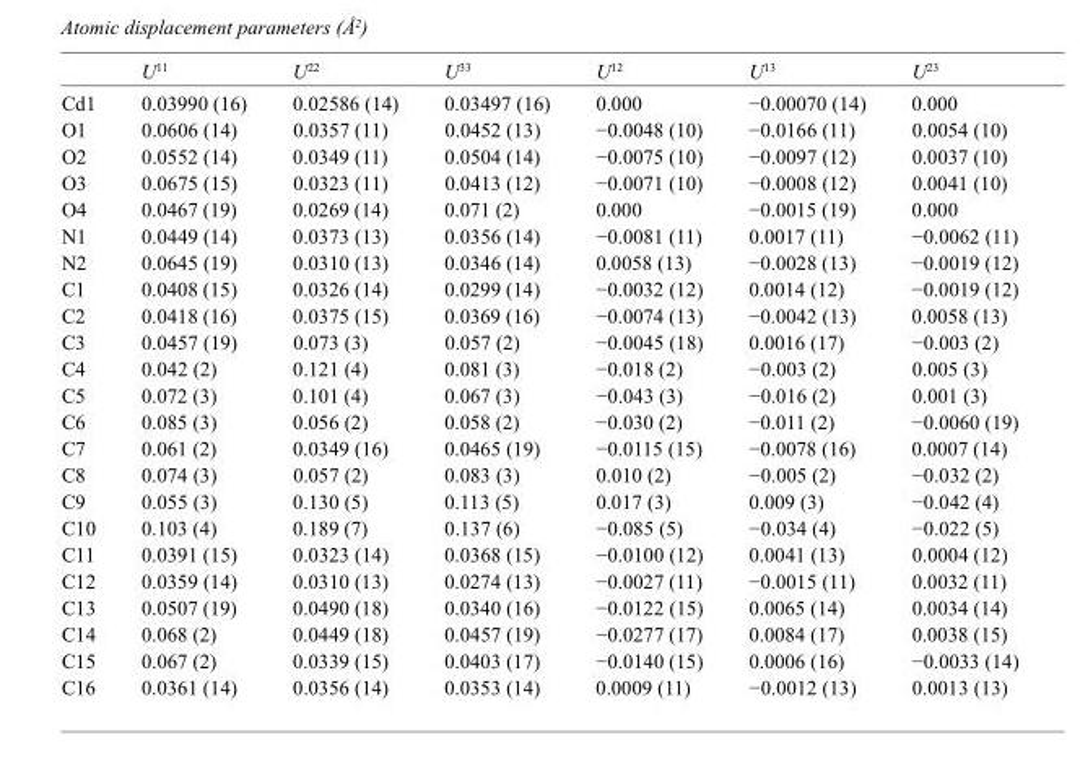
<table><thead><tr><td></td><td>U<sup>11</sup></td><td>U<sup>22</sup></td><td>U<sup>33</sup></td><td>U<sup>12</sup></td><td>U<sup>13</sup></td><td>U<sup>23</sup></td></tr></thead><tbody><tr><td>Cd1</td><td>0.03990 (16)</td><td>0.02586 (14)</td><td>0.03497 (16)</td><td>0.000</td><td>−0.00070 (14)</td><td>0.000</td></tr><tr><td>O1</td><td>0.0606 (14)</td><td>0.0357 (11)</td><td>0.0452 (13)</td><td>−0.0048 (10)</td><td>−0.0166 (11)</td><td>0.0054 (10)</td></tr><tr><td>O2</td><td>0.0552 (14)</td><td>0.0349 (11)</td><td>0.0504 (14)</td><td>−0.0075 (10)</td><td>−0.0097 (12)</td><td>0.0037 (10)</td></tr><tr><td>O3</td><td>0.0675 (15)</td><td>0.0323 (11)</td><td>0.0413 (12)</td><td>−0.0071 (10)</td><td>−0.0008 (12)</td><td>0.0041 (10)</td></tr><tr><td>O4</td><td>0.0467 (19)</td><td>0.0269 (14)</td><td>0.071 (2)</td><td>0.000</td><td>−0.0015 (19)</td><td>0.000</td></tr><tr><td>N1</td><td>0.0449 (14)</td><td>0.0373 (13)</td><td>0.0356 (14)</td><td>−0.0081 (11)</td><td>0.0017 (11)</td><td>−0.0062 (11)</td></tr><tr><td>N2</td><td>0.0645 (19)</td><td>0.0310 (13)</td><td>0.0346 (14)</td><td>0.0058 (13)</td><td>−0.0028 (13)</td><td>−0.0019 (12)</td></tr><tr><td>C1</td><td>0.0408 (15)</td><td>0.0326 (14)</td><td>0.0299 (14)</td><td>−0.0032 (12)</td><td>0.0014 (12)</td><td>−0.0019 (12)</td></tr><tr><td>C2</td><td>0.0418 (16)</td><td>0.0375 (15)</td><td>0.0369 (16)</td><td>−0.0074 (13)</td><td>−0.0042 (13)</td><td>0.0058 (13)</td></tr><tr><td>C3</td><td>0.0457 (19)</td><td>0.073 (3)</td><td>0.057 (2)</td><td>−0.0045 (18)</td><td>0.0016 (17)</td><td>−0.003 (2)</td></tr><tr><td>C4</td><td>0.042 (2)</td><td>0.121 (4)</td><td>0.081 (3)</td><td>−0.018 (2)</td><td>−0.003 (2)</td><td>0.005 (3)</td></tr><tr><td>C5</td><td>0.072 (3)</td><td>0.101 (4)</td><td>0.067 (3)</td><td>−0.043 (3)</td><td>−0.016 (2)</td><td>0.001 (3)</td></tr><tr><td>C6</td><td>0.085 (3)</td><td>0.056 (2)</td><td>0.058 (2)</td><td>−0.030 (2)</td><td>−0.011 (2)</td><td>−0.0060 (19)</td></tr><tr><td>C7</td><td>0.061 (2)</td><td>0.0349 (16)</td><td>0.0465 (19)</td><td>−0.0115 (15)</td><td>−0.0078 (16)</td><td>0.0007 (14)</td></tr><tr><td>C8</td><td>0.074 (3)</td><td>0.057 (2)</td><td>0.083 (3)</td><td>0.010 (2)</td><td>−0.005 (2)</td><td>−0.032 (2)</td></tr><tr><td>C9</td><td>0.055 (3)</td><td>0.130 (5)</td><td>0.113 (5)</td><td>0.017 (3)</td><td>0.009 (3)</td><td>−0.042 (4)</td></tr><tr><td>C10</td><td>0.103 (4)</td><td>0.189 (7)</td><td>0.137 (6)</td><td>−0.085 (5)</td><td>−0.034 (4)</td><td>−0.022 (5)</td></tr><tr><td>C11</td><td>0.0391 (15)</td><td>0.0323 (14)</td><td>0.0368 (15)</td><td>−0.0100 (12)</td><td>0.0041 (13)</td><td>0.0004 (12)</td></tr><tr><td>C12</td><td>0.0359 (14)</td><td>0.0310 (13)</td><td>0.0274 (13)</td><td>−0.0027 (11)</td><td>−0.0015 (11)</td><td>0.0032 (11)</td></tr><tr><td>C13</td><td>0.0507 (19)</td><td>0.0490 (18)</td><td>0.0340 (16)</td><td>−0.0122 (15)</td><td>0.0065 (14)</td><td>0.0034 (14)</td></tr><tr><td>C14</td><td>0.068 (2)</td><td>0.0449 (18)</td><td>0.0457 (19)</td><td>−0.0277 (17)</td><td>0.0084 (17)</td><td>0.0038 (15)</td></tr><tr><td>C15</td><td>0.067 (2)</td><td>0.0339 (15)</td><td>0.0403 (17)</td><td>−0.0140 (15)</td><td>0.0006 (16)</td><td>−0.0033 (14)</td></tr><tr><td>C16</td><td>0.0361 (14)</td><td>0.0356 (14)</td><td>0.0353 (14)</td><td>0.0009 (11)</td><td>−0.0012 (13)</td><td>0.0013 (13)</td></tr></tbody></table>